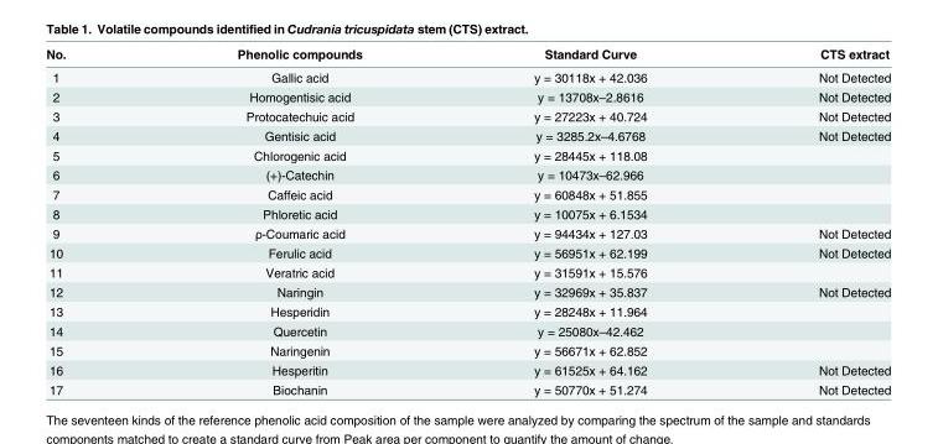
<table><thead><tr><td>No.</td><td>Phenolic compounds</td><td>Standard Curve</td><td>CTS extract</td></tr></thead><tbody><tr><td>1</td><td>Gallic acid</td><td>y = 30118x + 42.036</td><td>Not Detected</td></tr><tr><td>2</td><td>Homogentisic acid</td><td>y = 13708x–2.8616</td><td>Not Detected</td></tr><tr><td>3</td><td>Protocatechuic acid</td><td>y = 27223x + 40.724</td><td>Not Detected</td></tr><tr><td>4</td><td>Gentisic acid</td><td>y = 3285.2x–4.6768</td><td>Not Detected</td></tr><tr><td>5</td><td>Chlorogenic acid</td><td>y = 28445x + 118.08</td><td></td></tr><tr><td>6</td><td>(+)-Catechin</td><td>y = 10473x–62.966</td><td></td></tr><tr><td>7</td><td>Caffeic acid</td><td>y = 60848x + 51.855</td><td></td></tr><tr><td>8</td><td>Phloretic acid</td><td>y = 10075x + 6.1534</td><td></td></tr><tr><td>9</td><td>ρ-Coumaric acid</td><td>y = 94434x + 127.03</td><td>Not Detected</td></tr><tr><td>10</td><td>Ferulic acid</td><td>y = 56951x + 62.199</td><td>Not Detected</td></tr><tr><td>11</td><td>Veratric acid</td><td>y = 31591x + 15.576</td><td></td></tr><tr><td>12</td><td>Naringin</td><td>y = 32969x + 35.837</td><td>Not Detected</td></tr><tr><td>13</td><td>Hesperidin</td><td>y = 28248x + 11.964</td><td></td></tr><tr><td>14</td><td>Quercetin</td><td>y = 25080x–42.462</td><td></td></tr><tr><td>15</td><td>Naringenin</td><td>y = 56671x + 62.852</td><td></td></tr><tr><td>16</td><td>Hesperitin</td><td>y = 61525x + 64.162</td><td>Not Detected</td></tr><tr><td>17</td><td>Biochanin</td><td>y = 50770x + 51.274</td><td>Not Detected</td></tr></tbody></table>